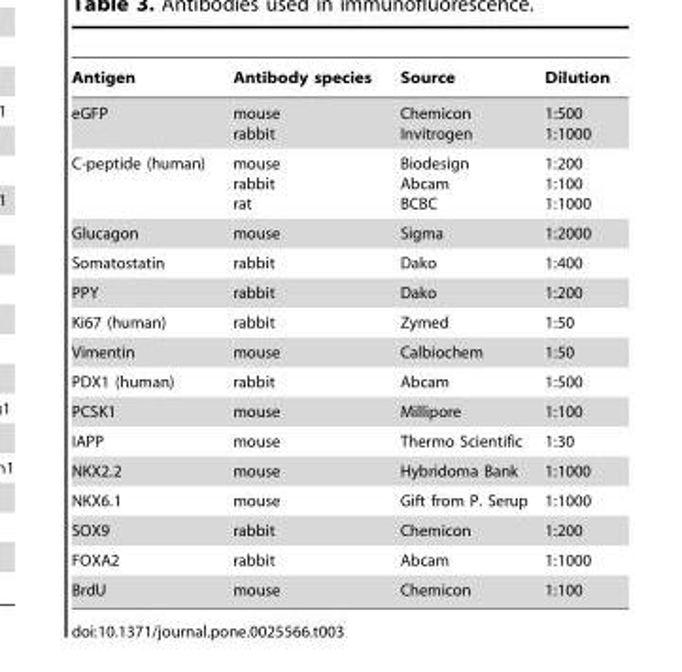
<table><thead><tr><td>Antigen</td><td>Antibody species</td><td>Source</td><td>Dilution</td></tr></thead><tbody><tr><td>eGFP</td><td>mouse rabbit</td><td>Chemicon Invitrogen</td><td>1:500 1:1000</td></tr><tr><td>C-peptide (human)</td><td>mouse rabbit rat</td><td>Biodesign Abcam BCBC</td><td>1:200 1:100 1:1000</td></tr><tr><td>Glucagon</td><td>mouse</td><td>Sigma</td><td>1:2000</td></tr><tr><td>Somatostatin</td><td>rabbit</td><td>Dako</td><td>1:400</td></tr><tr><td>PPY</td><td>rabbit</td><td>Dako</td><td>1:200</td></tr><tr><td>Ki67 (human)</td><td>rabbit</td><td>Zymed</td><td>1:50</td></tr><tr><td>Vimentin</td><td>mouse</td><td>Calbiochem</td><td>1:50</td></tr><tr><td>PDX1 (human)</td><td>rabbit</td><td>Abcam</td><td>1:500</td></tr><tr><td>PCSK1</td><td>mouse</td><td>Millipore</td><td>1:100</td></tr><tr><td>IAPP</td><td>mouse</td><td>Thermo Scientific</td><td>1:30</td></tr><tr><td>NKX2.2</td><td>mouse</td><td>Hybridoma Bank</td><td>1:1000</td></tr><tr><td>NKX6.1</td><td>mouse</td><td>Gift from P. Serup</td><td>1:1000</td></tr><tr><td>SOX9</td><td>rabbit</td><td>Chemicon</td><td>1:200</td></tr><tr><td>FOXA2</td><td>rabbit</td><td>Abcam</td><td>1:1000</td></tr><tr><td>BrdU</td><td>mouse</td><td>Chemicon</td><td>1:100</td></tr></tbody></table>